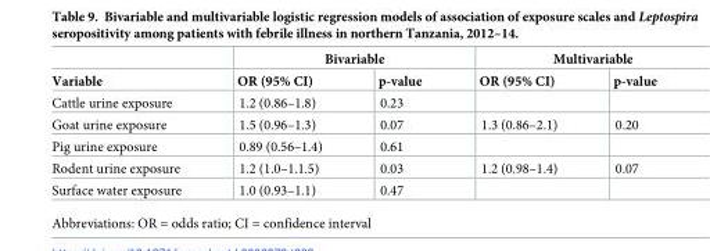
<table><thead><tr><td rowspan="2">Variable</td><td colspan="2">Bivariable</td><td colspan="2">Multivariable</td></tr><tr><td>OR (95% CI)</td><td>p-value</td><td>OR (95% CI)</td><td>p-value</td></tr></thead><tbody><tr><td>Cattle urine exposure</td><td>1.2 (0.86–1.8)</td><td>0.23</td><td></td><td></td></tr><tr><td>Goat urine exposure</td><td>1.5 (0.96–1.3)</td><td>0.07</td><td>1.3 (0.86–2.1)</td><td>0.20</td></tr><tr><td>Pig urine exposure</td><td>0.89 (0.56–1.4)</td><td>0.61</td><td></td><td></td></tr><tr><td>Rodent urine exposure</td><td>1.2 (1.0–1.1.5)</td><td>0.03</td><td>1.2 (0.98–1.4)</td><td>0.07</td></tr><tr><td>Surface water exposure</td><td>1.0 (0.93–1.1)</td><td>0.47</td><td></td><td></td></tr></tbody></table>